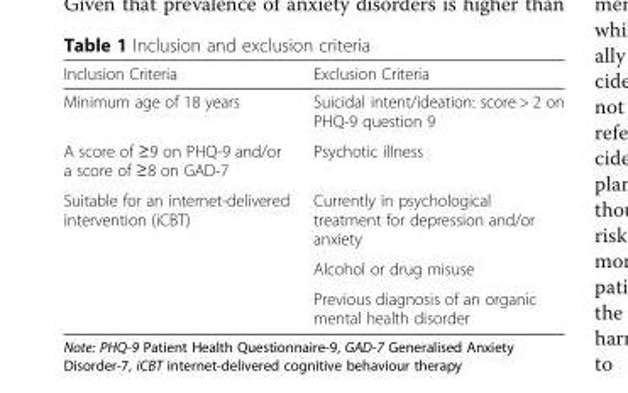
<table><thead><tr><td>Inclusion Criteria</td><td>Exclusion Criteria</td></tr></thead><tbody><tr><td>Minimum age of 18 years</td><td>Suicidal intent/ideation: score &gt; 2 on PHQ-9 question 9</td></tr><tr><td>A score of ≥9 on PHQ-9 and/or a score of ≥8 on GAD-7</td><td>Psychotic illness</td></tr><tr><td rowspan="3">Suitable for an internet-delivered intervention (iCBT)</td><td>Currently in psychological treatment for depression and/or anxiety</td></tr><tr><td>Alcohol or drug misuse</td></tr><tr><td>Previous diagnosis of an organic mental health disorder</td></tr></tbody></table>